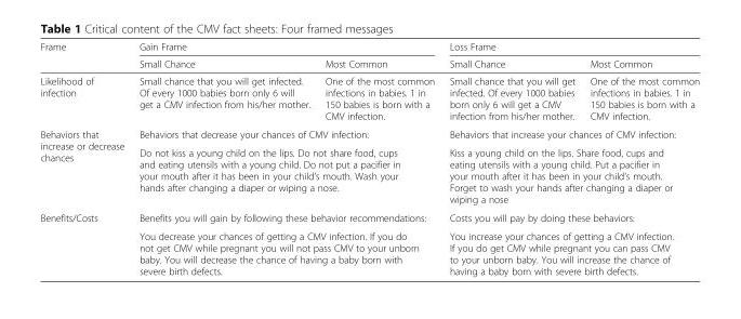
<table><thead><tr><td rowspan="2">Frame</td><td colspan="2">Gain Frame</td><td colspan="2">Loss Frame</td></tr><tr><td>Small Chance</td><td>Most Common</td><td>Small Chance</td><td>Most Common</td></tr></thead><tbody><tr><td>Likelihood of infection</td><td>Small chance that you will get infected. Of every 1000 babies born only 6 will get a CMV infection from his/her mother.</td><td>One of the most common infections in babies. 1 in 150 babies is born with a CMV infection.</td><td>Small chance that you will get infected. Of every 1000 babies born only 6 will get a CMV infection from his/her mother.</td><td>One of the most common infections in babies. 1 in 150 babies is born with a CMV infection.</td></tr><tr><td rowspan="2">Behaviors that increase or decrease chances</td><td colspan="2">Behaviors that decrease your chances of CMV infection:</td><td colspan="2">Behaviors that increase your chances of CMV infection:</td></tr><tr><td colspan="2">Do not kiss a young child on the lips. Do not share food, cups and eating utensils with a young child. Do not put a pacifier in your mouth after it has been in your child’s mouth. Wash your hands after changing a diaper or wiping a nose.</td><td colspan="2">Kiss a young child on the lips. Share food, cups and eating utensils with a young child. Put a pacifier in your mouth after it has been in your child’s mouth. Forget to wash your hands after changing a diaper or wiping a nose</td></tr><tr><td rowspan="2">Benefits/Costs</td><td colspan="2">Benefits you will gain by following these behavior recommendations:</td><td colspan="2">Costs you will pay by doing these behaviors:</td></tr><tr><td colspan="2">You decrease your chances of getting a CMV infection. If you do not get CMV while pregnant you will not pass CMV to your unborn baby. You will decrease the chance of having a baby born with severe birth defects.</td><td colspan="2">You increase your chances of getting a CMV infection. If you do get CMV while pregnant you can pass CMV to your unborn baby. You will increase the chance of having a baby born with severe birth defects.</td></tr></tbody></table>